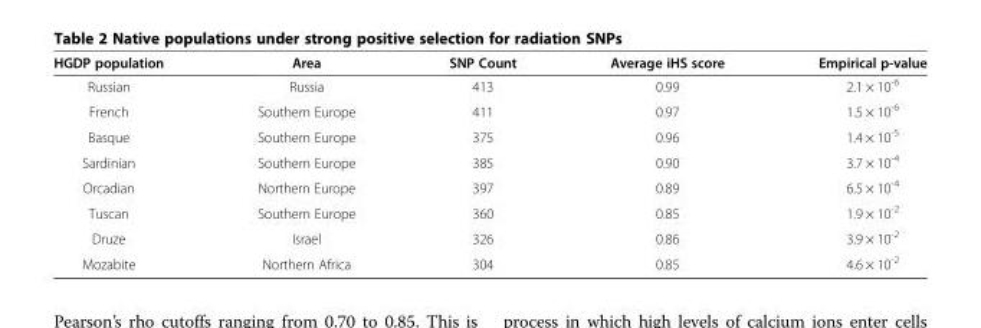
<table><thead><tr><td>HGDP population</td><td>Area</td><td>SNP Count</td><td>Average iHS score</td><td>Empirical p-value</td></tr></thead><tbody><tr><td>Russian</td><td>Russia</td><td>413</td><td>0.99</td><td>2.1 × 10<sup>-6</sup></td></tr><tr><td>French</td><td>Southern Europe</td><td>411</td><td>0.97</td><td>1.5 × 10<sup>-6</sup></td></tr><tr><td>Basque</td><td>Southern Europe</td><td>375</td><td>0.96</td><td>1.4 × 10<sup>-5</sup></td></tr><tr><td>Sardinian</td><td>Southern Europe</td><td>385</td><td>0.90</td><td>3.7 × 10<sup>-4</sup></td></tr><tr><td>Orcadian</td><td>Northern Europe</td><td>397</td><td>0.89</td><td>6.5 × 10<sup>-4</sup></td></tr><tr><td>Tuscan</td><td>Southern Europe</td><td>360</td><td>0.85</td><td>1.9 × 10<sup>-2</sup></td></tr><tr><td>Druze</td><td>Israel</td><td>326</td><td>0.86</td><td>3.9 × 10<sup>-2</sup></td></tr><tr><td>Mozabite</td><td>Northern Africa</td><td>304</td><td>0.85</td><td>4.6 × 10<sup>-2</sup></td></tr></tbody></table>